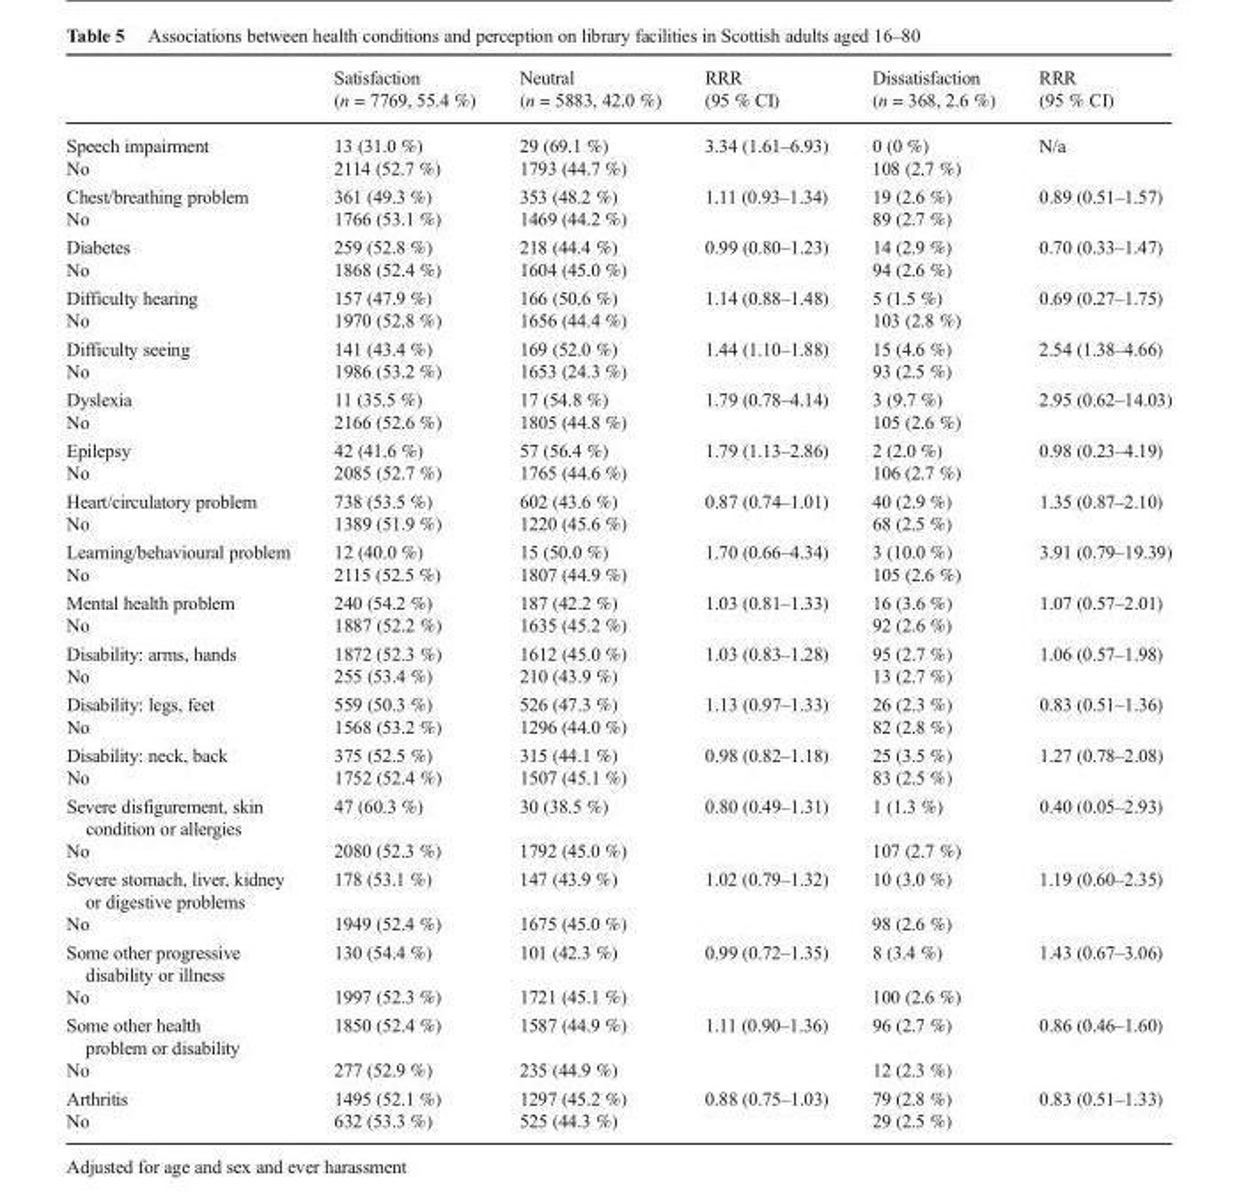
<table><thead><tr><td></td><td>Satisfaction (n = 7769, 55.4 %)</td><td>Neutral (n = 5883, 42.0 %)</td><td>RRR (95 % CI)</td><td>Dissatisfaction (n = 368, 2.6 %)</td><td>RRR (95 % CI)</td></tr></thead><tbody><tr><td>Speech impairment</td><td>13 (31.0 %)</td><td>29 (69.1 %)</td><td rowspan="2">3.34 (1.61–6.93)</td><td>0 (0 %)</td><td rowspan="2">N/a</td></tr><tr><td>No</td><td>2114 (52.7 %)</td><td>1793 (44.7 %)</td><td>108 (2.7 %)</td></tr><tr><td>Chest/breathing problem</td><td>361 (49.3 %)</td><td>353 (48.2 %)</td><td rowspan="2">1.11 (0.93–1.34)</td><td>19 (2.6 %)</td><td rowspan="2">0.89 (0.51–1.57)</td></tr><tr><td>No</td><td>1766 (53.1 %)</td><td>1469 (44.2 %)</td><td>89 (2.7 %)</td></tr><tr><td>Diabetes</td><td>259 (52.8 %)</td><td>218 (44.4 %)</td><td rowspan="2">0.99 (0.80–1.23)</td><td>14 (2.9 %)</td><td rowspan="2">0.70 (0.33–1.47)</td></tr><tr><td>No</td><td>1868 (52.4 %)</td><td>1604 (45.0 %)</td><td>94 (2.6 %)</td></tr><tr><td>Difficulty hearing</td><td>157 (47.9 %)</td><td>166 (50.6 %)</td><td rowspan="2">1.14 (0.88–1.48)</td><td>5 (1.5 %)</td><td rowspan="2">0.69 (0.27–1.75)</td></tr><tr><td>No</td><td>1970 (52.8 %)</td><td>1656 (44.4 %)</td><td>103 (2.8 %)</td></tr><tr><td>Difficulty seeing</td><td>141 (43.4 %)</td><td>169 (52.0 %)</td><td rowspan="2">1.44 (1.10–1.88)</td><td>15 (4.6 %)</td><td rowspan="2">2.54 (1.38–4.66)</td></tr><tr><td>No</td><td>1986 (53.2 %)</td><td>1653 (24.3 %)</td><td>93 (2.5 %)</td></tr><tr><td>Dyslexia</td><td>11 (35.5 %)</td><td>17 (54.8 %)</td><td rowspan="2">1.79 (0.78–4.14)</td><td>3 (9.7 %)</td><td rowspan="2">2.95 (0.62–14.03)</td></tr><tr><td>No</td><td>2166 (52.6 %)</td><td>1805 (44.8 %)</td><td>105 (2.6 %)</td></tr><tr><td>Epilepsy</td><td>42 (41.6 %)</td><td>57 (56.4 %)</td><td rowspan="2">1.79 (1.13–2.86)</td><td>2 (2.0 %)</td><td rowspan="2">0.98 (0.23–4.19)</td></tr><tr><td>No</td><td>2085 (52.7 %)</td><td>1765 (44.6 %)</td><td>106 (2.7 %)</td></tr><tr><td>Heart/circulatory problem</td><td>738 (53.5 %)</td><td>602 (43.6 %)</td><td rowspan="2">0.87 (0.74–1.01)</td><td>40 (2.9 %)</td><td rowspan="2">1.35 (0.87–2.10)</td></tr><tr><td>No</td><td>1389 (51.9 %)</td><td>1220 (45.6 %)</td><td>68 (2.5 %)</td></tr><tr><td>Learning/behavioural problem</td><td>12 (40.0 %)</td><td>15 (50.0 %)</td><td rowspan="2">1.70 (0.66–4.34)</td><td>3 (10.0 %)</td><td rowspan="2">3.91 (0.79–19.39)</td></tr><tr><td>No</td><td>2115 (52.5 %)</td><td>1807 (44.9 %)</td><td>105 (2.6 %)</td></tr><tr><td>Mental health problem</td><td>240 (54.2 %)</td><td>187 (42.2 %)</td><td rowspan="2">1.03 (0.81–1.33)</td><td>16 (3.6 %)</td><td rowspan="2">1.07 (0.57–2.01)</td></tr><tr><td>No</td><td>1887 (52.2 %)</td><td>1635 (45.2 %)</td><td>92 (2.6 %)</td></tr><tr><td>Disability: arms, hands</td><td>1872 (52.3 %)</td><td>1612 (45.0 %)</td><td rowspan="2">1.03 (0.83–1.28)</td><td>95 (2.7 %)</td><td rowspan="2">1.06 (0.57–1.98)</td></tr><tr><td>No</td><td>255 (53.4 %)</td><td>210 (43.9 %)</td><td>13 (2.7 %)</td></tr><tr><td>Disability: legs, feet</td><td>559 (50.3 %)</td><td>526 (47.3 %)</td><td rowspan="2">1.13 (0.97–1.33)</td><td>26 (2.3 %)</td><td rowspan="2">0.83 (0.51–1.36)</td></tr><tr><td>No</td><td>1568 (53.2 %)</td><td>1296 (44.0 %)</td><td>82 (2.8 %)</td></tr><tr><td>Disability: neck, back</td><td>375 (52.5 %)</td><td>315 (44.1 %)</td><td rowspan="2">0.98 (0.82–1.18)</td><td>25 (3.5 %)</td><td rowspan="2">1.27 (0.78–2.08)</td></tr><tr><td>No</td><td>1752 (52.4 %)</td><td>1507 (45.1 %)</td><td>83 (2.5 %)</td></tr><tr><td>Severe disfigurement, skin condition or allergies</td><td>47 (60.3 %)</td><td>30 (38.5 %)</td><td rowspan="2">0.80 (0.49–1.31)</td><td>1 (1.3 %)</td><td rowspan="2">0.40 (0.05–2.93)</td></tr><tr><td>No</td><td>2080 (52.3 %)</td><td>1792 (45.0 %)</td><td>107 (2.7 %)</td></tr><tr><td>Severe stomach, liver, kidney or digestive problems</td><td>178 (53.1 %)</td><td>147 (43.9 %)</td><td rowspan="2">1.02 (0.79–1.32)</td><td>10 (3.0 %)</td><td rowspan="2">1.19 (0.60–2.35)</td></tr><tr><td>No</td><td>1949 (52.4 %)</td><td>1675 (45.0 %)</td><td>98 (2.6 %)</td></tr><tr><td>Some other progressive disability or illness</td><td>130 (54.4 %)</td><td>101 (42.3 %)</td><td rowspan="2">0.99 (0.72–1.35)</td><td>8 (3.4 %)</td><td rowspan="2">1.43 (0.67–3.06)</td></tr><tr><td>No</td><td>1997 (52.3 %)</td><td>1721 (45.1 %)</td><td>100 (2.6 %)</td></tr><tr><td>Some other health problem or disability</td><td>1850 (52.4 %)</td><td>1587 (44.9 %)</td><td rowspan="2">1.11 (0.90–1.36)</td><td>96 (2.7 %)</td><td rowspan="2">0.86 (0.46–1.60)</td></tr><tr><td>No</td><td>277 (52.9 %)</td><td>235 (44.9 %)</td><td>12 (2.3 %)</td></tr><tr><td>Arthritis</td><td>1495 (52.1 %)</td><td>1297 (45.2 %)</td><td rowspan="2">0.88 (0.75–1.03)</td><td>79 (2.8 %)</td><td rowspan="2">0.83 (0.51–1.33)</td></tr><tr><td>No</td><td>632 (53.3 %)</td><td>525 (44.3 %)</td><td>29 (2.5 %)</td></tr></tbody></table>